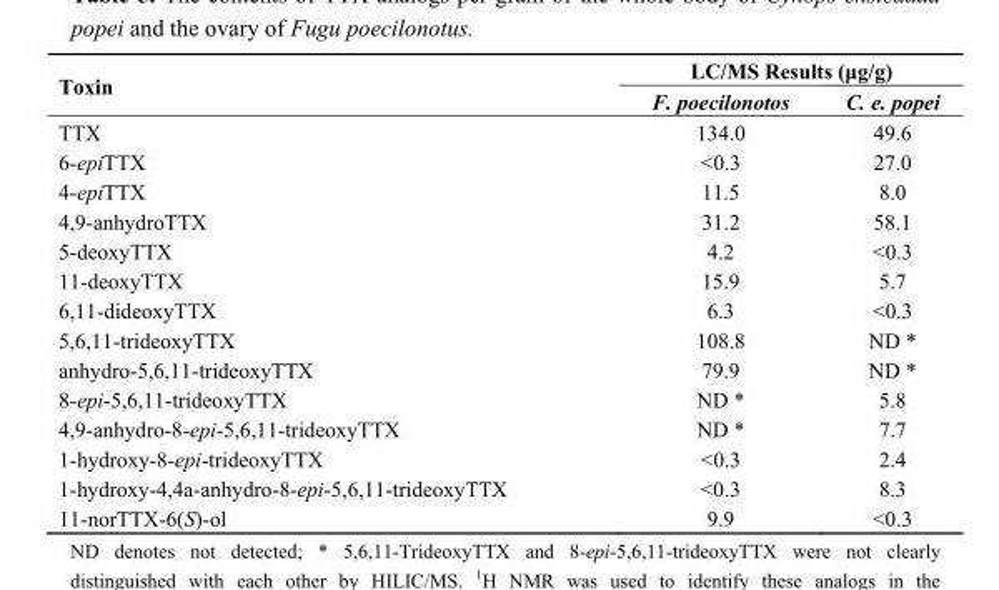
<table><thead><tr><td rowspan="2">Toxin</td><td colspan="2">LC/MS Results (μg/g)</td></tr><tr><td>F. poecilonotos</td><td>C. e. popei</td></tr></thead><tbody><tr><td>TTX</td><td>134.0</td><td>49.6</td></tr><tr><td>6-epiTTX</td><td>&lt;0.3</td><td>27.0</td></tr><tr><td>4-epiTTX</td><td>11.5</td><td>8.0</td></tr><tr><td>4,9-anhydroTTX</td><td>31.2</td><td>58.1</td></tr><tr><td>5-deoxyTTX</td><td>4.2</td><td>&lt;0.3</td></tr><tr><td>11-deoxyTTX</td><td>15.9</td><td>5.7</td></tr><tr><td>6,11-dideoxyTTX</td><td>6.3</td><td>&lt;0.3</td></tr><tr><td>5,6,11-trideoxyTTX</td><td>108.8</td><td>ND *</td></tr><tr><td>anhydro-5,6,11-trideoxyTTX</td><td>79.9</td><td>ND *</td></tr><tr><td>8-epi-5,6,11-trideoxyTTX</td><td>ND *</td><td>5.8</td></tr><tr><td>4,9-anhydro-8-epi-5,6,11-trideoxyTTX</td><td>ND *</td><td>7.7</td></tr><tr><td>1-hydroxy-8-epi-trideoxyTTX</td><td>&lt;0.3</td><td>2.4</td></tr><tr><td>1-hydroxy-4,4a-anhydro-8-epi-5,6,11-trideoxyTTX</td><td>&lt;0.3</td><td>8.3</td></tr><tr><td>11-norTTX-6(S)-ol</td><td>9.9</td><td>&lt;0.3</td></tr></tbody></table>